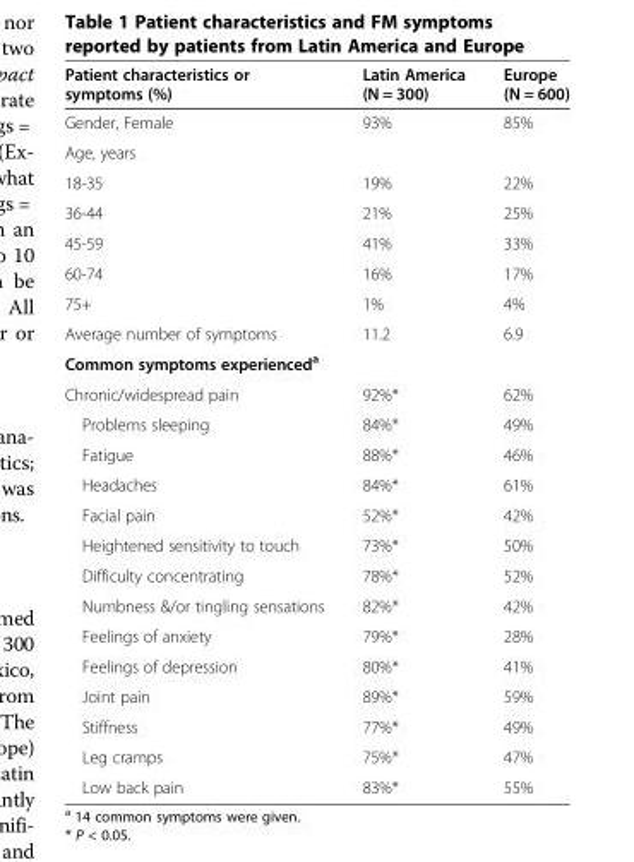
<table><thead><tr><td>Patient characteristics or symptoms (%)</td><td>Latin America (N = 300)</td><td>Europe (N = 600)</td></tr></thead><tbody><tr><td>Gender, Female</td><td>93%</td><td>85%</td></tr><tr><td colspan="3">Age, years</td></tr><tr><td>18-35</td><td>19%</td><td>22%</td></tr><tr><td>36-44</td><td>21%</td><td>25%</td></tr><tr><td>45-59</td><td>41%</td><td>33%</td></tr><tr><td>60-74</td><td>16%</td><td>17%</td></tr><tr><td>75+</td><td>1%</td><td>4%</td></tr><tr><td>Average number of symptoms</td><td>11.2</td><td>6.9</td></tr><tr><td colspan="3">Common symptoms experienced<sup>a</sup></td></tr><tr><td>Chronic/widespread pain</td><td>92%*</td><td>62%</td></tr><tr><td>Problems sleeping</td><td>84%*</td><td>49%</td></tr><tr><td>Fatigue</td><td>88%*</td><td>46%</td></tr><tr><td>Headaches</td><td>84%*</td><td>61%</td></tr><tr><td>Facial pain</td><td>52%*</td><td>42%</td></tr><tr><td>Heightened sensitivity to touch</td><td>73%*</td><td>50%</td></tr><tr><td>Difficulty concentrating</td><td>78%*</td><td>52%</td></tr><tr><td>Numbness &amp;/or tingling sensations</td><td>82%*</td><td>42%</td></tr><tr><td>Feelings of anxiety</td><td>79%*</td><td>28%</td></tr><tr><td>Feelings of depression</td><td>80%*</td><td>41%</td></tr><tr><td>Joint pain</td><td>89%*</td><td>59%</td></tr><tr><td>Stiffness</td><td>77%*</td><td>49%</td></tr><tr><td>Leg cramps</td><td>75%*</td><td>47%</td></tr><tr><td>Low back pain</td><td>83%*</td><td>55%</td></tr></tbody></table>